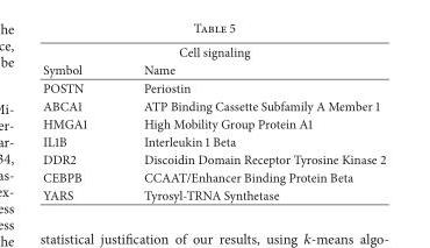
<table><thead><tr><td colspan="2">Cell signaling</td></tr><tr><td>Symbol</td><td>Name</td></tr></thead><tbody><tr><td>POSTN</td><td>Periostin</td></tr><tr><td>ABCA1</td><td>ATP Binding Cassette Subfamily A Member 1</td></tr><tr><td>HMGA1</td><td>High Mobility Group Protein A1</td></tr><tr><td>IL1B</td><td>Interleukin 1 Beta</td></tr><tr><td>DDR2</td><td>Discoidin Domain Receptor Tyrosine Kinase 2</td></tr><tr><td>CEBPB</td><td>CCAAT/Enhancer Binding Protein Beta</td></tr><tr><td>YARS</td><td>Tyrosyl-TRNA Synthetase</td></tr></tbody></table>